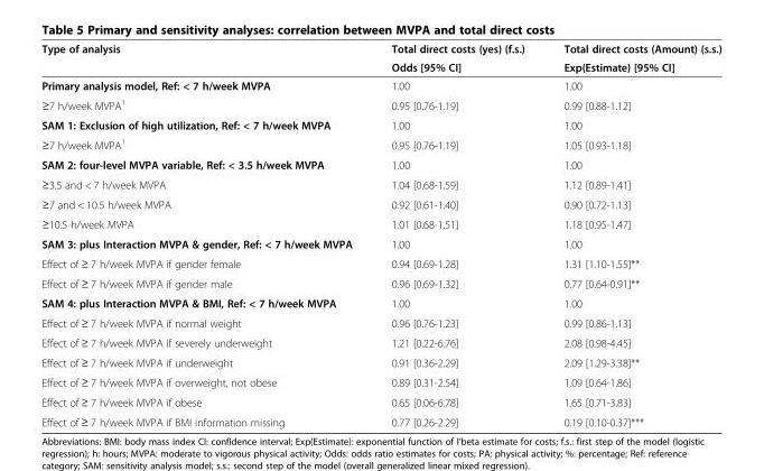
<table><thead><tr><td rowspan="2">Type of analysis</td><td rowspan="2">Total direct costs (yes) (f.s.) Odds [95% CI]</td><td rowspan="2">Total direct costs (Amount) (s.s.) Exp(Estimate) [95% CI]</td></tr><tr></tr></thead><tbody><tr><td>Primary analysis model, Ref: &lt; 7 h/week MVPA</td><td>1.00</td><td>1.00</td></tr><tr><td>≥7 h/week MVPA<sup>1</sup></td><td>0.95 [0.76-1.19]</td><td>0.99 [0.88-1.12]</td></tr><tr><td>SAM 1: Exclusion of high utilization, Ref: &lt; 7 h/week MVPA</td><td>1.00</td><td>1.00</td></tr><tr><td>≥7 h/week MVPA<sup>1</sup></td><td>0.95 [0.76-1.19]</td><td>1.05 [0.93-1.18]</td></tr><tr><td>SAM 2: four-level MVPA variable, Ref: &lt; 3.5 h/week MVPA</td><td>1.00</td><td>1.00</td></tr><tr><td>≥3.5 and &lt; 7 h/week MVPA</td><td>1.04 [0.68-1.59]</td><td>1.12 [0.89-1.41]</td></tr><tr><td>≥7 and &lt; 10.5 h/week MVPA</td><td>0.92 [0.61-1.40]</td><td>0.90 [0.72-1.13]</td></tr><tr><td>≥10.5 h/week MVPA</td><td>1.01 [0.68-1.51]</td><td>1.18 [0.95-1.47]</td></tr><tr><td>SAM 3: plus Interaction MVPA &amp; gender, Ref: &lt; 7 h/week MVPA</td><td>1.00</td><td>1.00</td></tr><tr><td>Effect of ≥ 7 h/week MVPA if gender female</td><td>0.94 [0.69-1.28]</td><td>1.31 [1.10-1.55]**</td></tr><tr><td>Effect of ≥ 7 h/week MVPA if gender male</td><td>0.96 [0.69-1.32]</td><td>0.77 [0.64-0.91]**</td></tr><tr><td>SAM 4: plus Interaction MVPA &amp; BMI, Ref: &lt; 7 h/week MVPA</td><td>1.00</td><td>1.00</td></tr><tr><td>Effect of ≥ 7 h/week MVPA if normal weight</td><td>0.96 [0.76-1.23]</td><td>0.99 [0.86-1.13]</td></tr><tr><td>Effect of ≥ 7 h/week MVPA if severely underweight</td><td>1.21 [0.22-6.76]</td><td>2.08 [0.98-4.45]</td></tr><tr><td>Effect of ≥ 7 h/week MVPA if underweight</td><td>0.91 [0.36-2.29]</td><td>2.09 [1.29-3.38]**</td></tr><tr><td>Effect of ≥ 7 h/week MVPA if overweight, not obese</td><td>0.89 [0.31-2.54]</td><td>1.09 [0.64-1.86]</td></tr><tr><td>Effect of ≥ 7 h/week MVPA if obese</td><td>0.65 [0.06-6.78]</td><td>1.65 [0.71-3.83]</td></tr><tr><td>Effect of ≥ 7 h/week MVPA if BMI information missing</td><td>0.77 [0.26-2.29]</td><td>0.19 [0.10-0.37]***</td></tr></tbody></table>